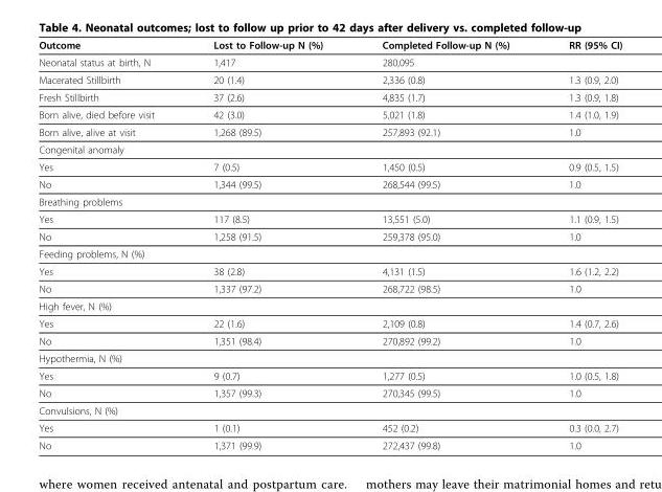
<table><thead><tr><td>Outcome</td><td>Lost to Follow-up N (%)</td><td>Completed Follow-up N (%)</td><td>RR (95% CI)</td></tr></thead><tbody><tr><td>Neonatal status at birth, N</td><td>1,417</td><td>280,095</td><td></td></tr><tr><td>Macerated Stillbirth</td><td>20 (1.4)</td><td>2,336 (0.8)</td><td>1.3 (0.9, 2.0)</td></tr><tr><td>Fresh Stillbirth</td><td>37 (2.6)</td><td>4,835 (1.7)</td><td>1.3 (0.9, 1.8)</td></tr><tr><td>Born alive, died before visit</td><td>42 (3.0)</td><td>5,021 (1.8)</td><td>1.4 (1.0, 1.9)</td></tr><tr><td>Born alive, alive at visit</td><td>1,268 (89.5)</td><td>257,893 (92.1)</td><td>1.0</td></tr><tr><td colspan="4">Congenital anomaly</td></tr><tr><td>Yes</td><td>7 (0.5)</td><td>1,450 (0.5)</td><td>0.9 (0.5, 1.5)</td></tr><tr><td>No</td><td>1,344 (99.5)</td><td>268,544 (99.5)</td><td>1.0</td></tr><tr><td colspan="4">Breathing problems</td></tr><tr><td>Yes</td><td>117 (8.5)</td><td>13,551 (5.0)</td><td>1.1 (0.9, 1.5)</td></tr><tr><td>No</td><td>1,258 (91.5)</td><td>259,378 (95.0)</td><td>1.0</td></tr><tr><td colspan="4">Feeding problems, N (%)</td></tr><tr><td>Yes</td><td>38 (2.8)</td><td>4,131 (1.5)</td><td>1.6 (1.2, 2.2)</td></tr><tr><td>No</td><td>1,337 (97.2)</td><td>268,722 (98.5)</td><td>1.0</td></tr><tr><td colspan="4">High fever, N (%)</td></tr><tr><td>Yes</td><td>22 (1.6)</td><td>2,109 (0.8)</td><td>1.4 (0.7, 2.6)</td></tr><tr><td>No</td><td>1,351 (98.4)</td><td>270,892 (99.2)</td><td>1.0</td></tr><tr><td colspan="4">Hypothermia, N (%)</td></tr><tr><td>Yes</td><td>9 (0.7)</td><td>1,277 (0.5)</td><td>1.0 (0.5, 1.8)</td></tr><tr><td>No</td><td>1,357 (99.3)</td><td>270,345 (99.5)</td><td>1.0</td></tr><tr><td colspan="4">Convulsions, N (%)</td></tr><tr><td>Yes</td><td>1 (0.1)</td><td>452 (0.2)</td><td>0.3 (0.0, 2.7)</td></tr><tr><td>No</td><td>1,371 (99.9)</td><td>272,437 (99.8)</td><td>1.0</td></tr></tbody></table>